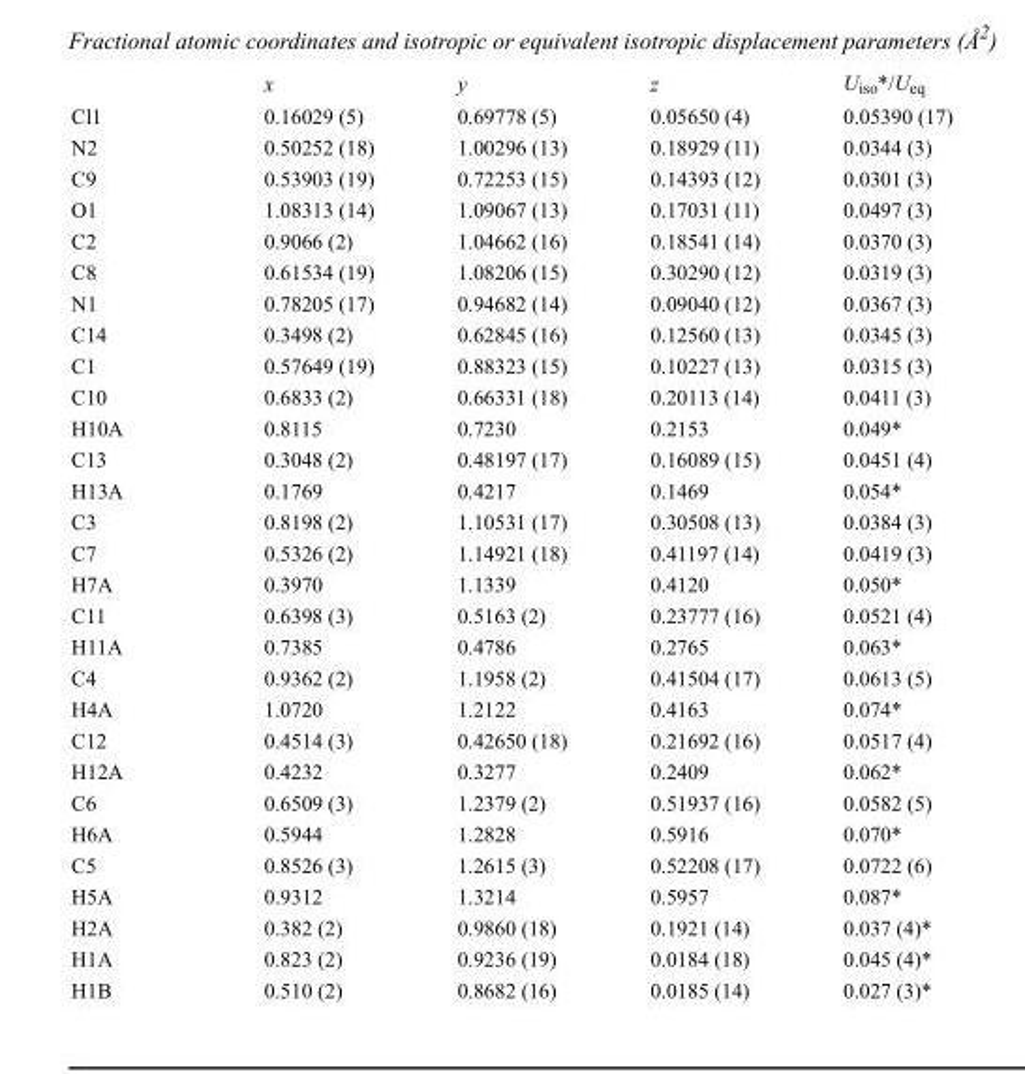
<table><thead><tr><td></td><td>x</td><td>y</td><td>z</td><td>U<sub>iso</sub>*/U<sub>eq</sub></td></tr></thead><tbody><tr><td>Cl1</td><td>0.16029 (5)</td><td>0.69778 (5)</td><td>0.05650 (4)</td><td>0.05390 (17)</td></tr><tr><td>N2</td><td>0.50252 (18)</td><td>1.00296 (13)</td><td>0.18929 (11)</td><td>0.0344 (3)</td></tr><tr><td>C9</td><td>0.53903 (19)</td><td>0.72253 (15)</td><td>0.14393 (12)</td><td>0.0301 (3)</td></tr><tr><td>O1</td><td>1.08313 (14)</td><td>1.09067 (13)</td><td>0.17031 (11)</td><td>0.0497 (3)</td></tr><tr><td>C2</td><td>0.9066 (2)</td><td>1.04662 (16)</td><td>0.18541 (14)</td><td>0.0370 (3)</td></tr><tr><td>C8</td><td>0.61534 (19)</td><td>1.08206 (15)</td><td>0.30290 (12)</td><td>0.0319 (3)</td></tr><tr><td>N1</td><td>0.78205 (17)</td><td>0.94682 (14)</td><td>0.09040 (12)</td><td>0.0367 (3)</td></tr><tr><td>C14</td><td>0.3498 (2)</td><td>0.62845 (16)</td><td>0.12560 (13)</td><td>0.0345 (3)</td></tr><tr><td>C1</td><td>0.57649 (19)</td><td>0.88323 (15)</td><td>0.10227 (13)</td><td>0.0315 (3)</td></tr><tr><td>C10</td><td>0.6833 (2)</td><td>0.66331 (18)</td><td>0.20113 (14)</td><td>0.0411 (3)</td></tr><tr><td>H10A</td><td>0.8115</td><td>0.7230</td><td>0.2153</td><td>0.049*</td></tr><tr><td>C13</td><td>0.3048 (2)</td><td>0.48197 (17)</td><td>0.16089 (15)</td><td>0.0451 (4)</td></tr><tr><td>H13A</td><td>0.1769</td><td>0.4217</td><td>0.1469</td><td>0.054*</td></tr><tr><td>C3</td><td>0.8198 (2)</td><td>1.10531 (17)</td><td>0.30508 (13)</td><td>0.0384 (3)</td></tr><tr><td>C7</td><td>0.5326 (2)</td><td>1.14921 (18)</td><td>0.41197 (14)</td><td>0.0419 (3)</td></tr><tr><td>H7A</td><td>0.3970</td><td>1.1339</td><td>0.4120</td><td>0.050*</td></tr><tr><td>C11</td><td>0.6398 (3)</td><td>0.5163 (2)</td><td>0.23777 (16)</td><td>0.0521 (4)</td></tr><tr><td>H11A</td><td>0.7385</td><td>0.4786</td><td>0.2765</td><td>0.063*</td></tr><tr><td>C4</td><td>0.9362 (2)</td><td>1.1958 (2)</td><td>0.41504 (17)</td><td>0.0613 (5)</td></tr><tr><td>H4A</td><td>1.0720</td><td>1.2122</td><td>0.4163</td><td>0.074*</td></tr><tr><td>C12</td><td>0.4514 (3)</td><td>0.42650 (18)</td><td>0.21692 (16)</td><td>0.0517 (4)</td></tr><tr><td>H12A</td><td>0.4232</td><td>0.3277</td><td>0.2409</td><td>0.062*</td></tr><tr><td>C6</td><td>0.6509 (3)</td><td>1.2379 (2)</td><td>0.51937 (16)</td><td>0.0582 (5)</td></tr><tr><td>H6A</td><td>0.5944</td><td>1.2828</td><td>0.5916</td><td>0.070*</td></tr><tr><td>C5</td><td>0.8526 (3)</td><td>1.2615 (3)</td><td>0.52208 (17)</td><td>0.0722 (6)</td></tr><tr><td>H5A</td><td>0.9312</td><td>1.3214</td><td>0.5957</td><td>0.087*</td></tr><tr><td>H2A</td><td>0.382 (2)</td><td>0.9860 (18)</td><td>0.1921 (14)</td><td>0.037 (4)*</td></tr><tr><td>H1A</td><td>0.823 (2)</td><td>0.9236 (19)</td><td>0.0184 (18)</td><td>0.045 (4)*</td></tr><tr><td>H1B</td><td>0.510 (2)</td><td>0.8682 (16)</td><td>0.0185 (14)</td><td>0.027 (3)*</td></tr></tbody></table>